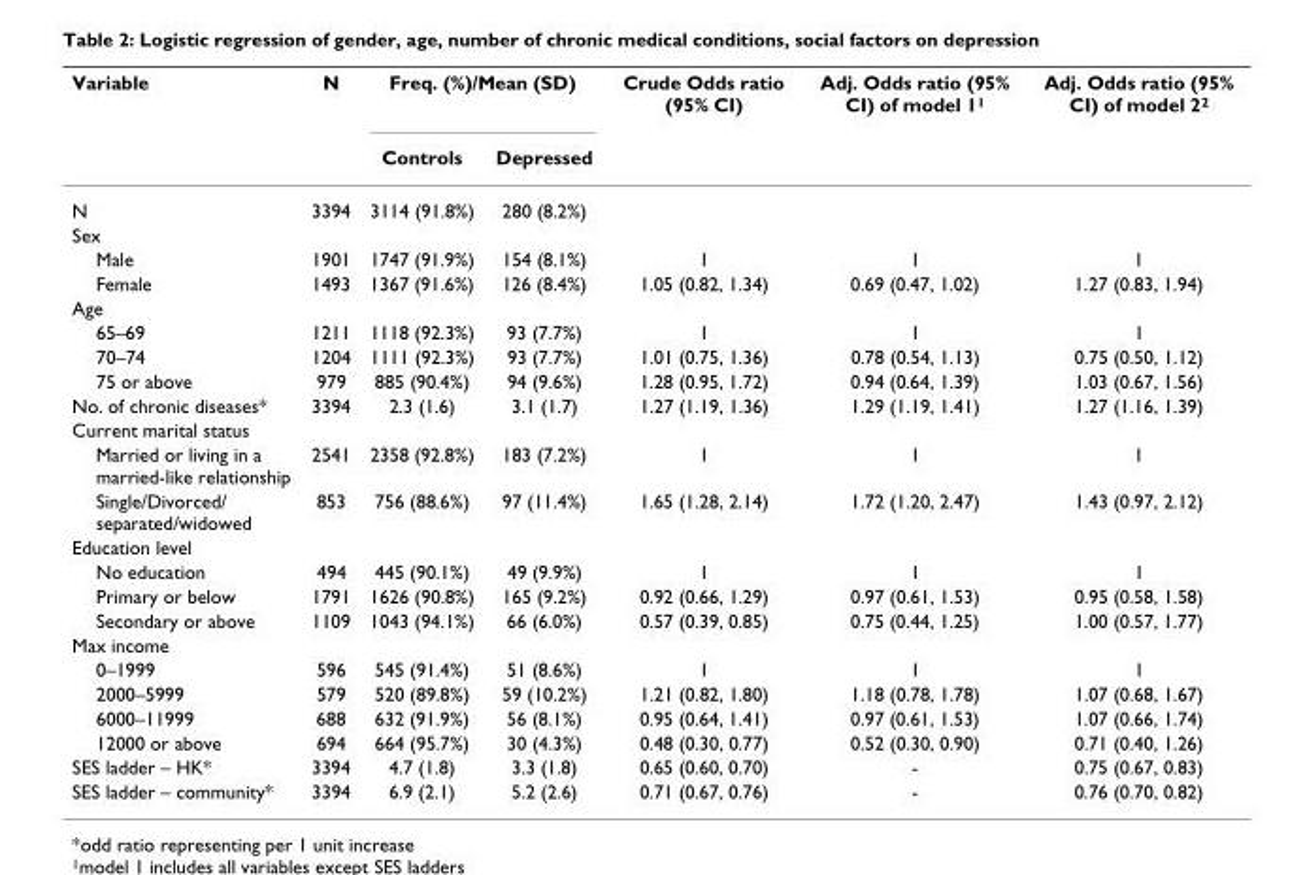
<table><thead><tr><td rowspan="2">Variable</td><td rowspan="2">N</td><td colspan="2">Freq. (%)/Mean (SD)</td><td rowspan="2">Crude Odds ratio (95% CI)</td><td rowspan="2">Adj. Odds ratio (95% CI) of model 1<sup>1</sup></td><td rowspan="2">Adj. Odds ratio (95% CI) of model 2<sup>2</sup></td></tr><tr><td>Controls</td><td>Depressed</td></tr></thead><tbody><tr><td>N</td><td>3394</td><td>3114 (91.8%)</td><td>280 (8.2%)</td><td></td><td></td><td></td></tr><tr><td colspan="7">Sex</td></tr><tr><td>Male</td><td>1901</td><td>1747 (91.9%)</td><td>154 (8.1%)</td><td>1</td><td>1</td><td>1</td></tr><tr><td>Female</td><td>1493</td><td>1367 (91.6%)</td><td>126 (8.4%)</td><td>1.05 (0.82, 1.34)</td><td>0.69 (0.47, 1.02)</td><td>1.27 (0.83, 1.94)</td></tr><tr><td colspan="7">Age</td></tr><tr><td>65–69</td><td>1211</td><td>1118 (92.3%)</td><td>93 (7.7%)</td><td>1</td><td>1</td><td>1</td></tr><tr><td>70–74</td><td>1204</td><td>1111 (92.3%)</td><td>93 (7.7%)</td><td>1.01 (0.75, 1.36)</td><td>0.78 (0.54, 1.13)</td><td>0.75 (0.50, 1.12)</td></tr><tr><td>75 or above</td><td>979</td><td>885 (90.4%)</td><td>94 (9.6%)</td><td>1.28 (0.95, 1.72)</td><td>0.94 (0.64, 1.39)</td><td>1.03 (0.67, 1.56)</td></tr><tr><td>No. of chronic diseases*</td><td>3394</td><td>2.3 (1.6)</td><td>3.1 (1.7)</td><td>1.27 (1.19, 1.36)</td><td>1.29 (1.19, 1.41)</td><td>1.27 (1.16, 1.39)</td></tr><tr><td colspan="7">Current marital status</td></tr><tr><td>Married or living in a married-like relationship</td><td>2541</td><td>2358 (92.8%)</td><td>183 (7.2%)</td><td>1</td><td>1</td><td>1</td></tr><tr><td>Single/Divorced/ separated/widowed</td><td>853</td><td>756 (88.6%)</td><td>97 (11.4%)</td><td>1.65 (1.28, 2.14)</td><td>1.72 (1.20, 2.47)</td><td>1.43 (0.97, 2.12)</td></tr><tr><td colspan="7">Education level</td></tr><tr><td>No education</td><td>494</td><td>445 (90.1%)</td><td>49 (9.9%)</td><td>1</td><td>1</td><td>1</td></tr><tr><td>Primary or below</td><td>1791</td><td>1626 (90.8%)</td><td>165 (9.2%)</td><td>0.92 (0.66, 1.29)</td><td>0.97 (0.61, 1.53)</td><td>0.95 (0.58, 1.58)</td></tr><tr><td>Secondary or above</td><td>1109</td><td>1043 (94.1%)</td><td>66 (6.0%)</td><td>0.57 (0.39, 0.85)</td><td>0.75 (0.44, 1.25)</td><td>1.00 (0.57, 1.77)</td></tr><tr><td colspan="7">Max income</td></tr><tr><td>0–1999</td><td>596</td><td>545 (91.4%)</td><td>51 (8.6%)</td><td>1</td><td>1</td><td>1</td></tr><tr><td>2000–5999</td><td>579</td><td>520 (89.8%)</td><td>59 (10.2%)</td><td>1.21 (0.82, 1.80)</td><td>1.18 (0.78, 1.78)</td><td>1.07 (0.68, 1.67)</td></tr><tr><td>6000–11999</td><td>688</td><td>632 (91.9%)</td><td>56 (8.1%)</td><td>0.95 (0.64, 1.41)</td><td>0.97 (0.61, 1.53)</td><td>1.07 (0.66, 1.74)</td></tr><tr><td>12000 or above</td><td>694</td><td>664 (95.7%)</td><td>30 (4.3%)</td><td>0.48 (0.30, 0.77)</td><td>0.52 (0.30, 0.90)</td><td>0.71 (0.40, 1.26)</td></tr><tr><td>SES ladder – HK*</td><td>3394</td><td>4.7 (1.8)</td><td>3.3 (1.8)</td><td>0.65 (0.60, 0.70)</td><td>-</td><td>0.75 (0.67, 0.83)</td></tr><tr><td>SES ladder – community*</td><td>3394</td><td>6.9 (2.1)</td><td>5.2 (2.6)</td><td>0.71 (0.67, 0.76)</td><td>-</td><td>0.76 (0.70, 0.82)</td></tr></tbody></table>